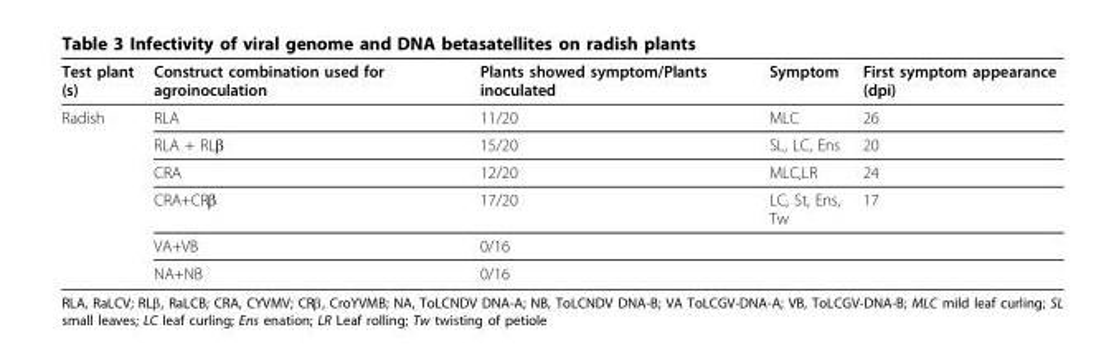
<table><thead><tr><td>Test plant (s)</td><td>Construct combination used for agroinoculation</td><td>Plants showed symptom/Plants inoculated</td><td>Symptom</td><td>First symptom appearance (dpi)</td></tr></thead><tbody><tr><td rowspan="6">Radish</td><td>RLA</td><td>11/20</td><td>MLC</td><td>26</td></tr><tr><td>RLA + RLβ</td><td>15/20</td><td>SL, LC, Ens</td><td>20</td></tr><tr><td>CRA</td><td>12/20</td><td>MLC,LR</td><td>24</td></tr><tr><td>CRA+CRβ</td><td>17/20</td><td>LC, St, Ens, Tw</td><td>17</td></tr><tr><td>VA+VB</td><td>0/16</td><td></td><td></td></tr><tr><td>NA+NB</td><td>0/16</td><td></td><td></td></tr></tbody></table>